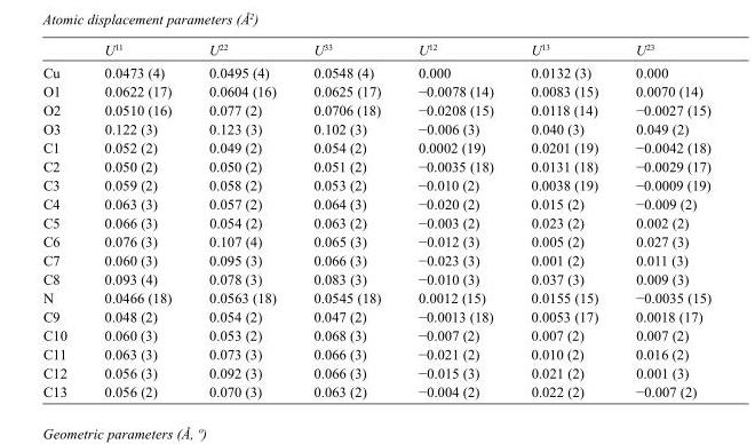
<table><thead><tr><td></td><td>U<sup>11</sup></td><td>U<sup>22</sup></td><td>U<sup>33</sup></td><td>U<sup>12</sup></td><td>U<sup>13</sup></td><td>U<sup>23</sup></td></tr></thead><tbody><tr><td>Cu</td><td>0.0473 (4)</td><td>0.0495 (4)</td><td>0.0548 (4)</td><td>0.000</td><td>0.0132 (3)</td><td>0.000</td></tr><tr><td>O1</td><td>0.0622 (17)</td><td>0.0604 (16)</td><td>0.0625 (17)</td><td>−0.0078 (14)</td><td>0.0083 (15)</td><td>0.0070 (14)</td></tr><tr><td>O2</td><td>0.0510 (16)</td><td>0.077 (2)</td><td>0.0706 (18)</td><td>−0.0208 (15)</td><td>0.0118 (14)</td><td>−0.0027 (15)</td></tr><tr><td>O3</td><td>0.122 (3)</td><td>0.123 (3)</td><td>0.102 (3)</td><td>−0.006 (3)</td><td>0.040 (3)</td><td>0.049 (2)</td></tr><tr><td>C1</td><td>0.052 (2)</td><td>0.049 (2)</td><td>0.054 (2)</td><td>0.0002 (19)</td><td>0.0201 (19)</td><td>−0.0042 (18)</td></tr><tr><td>C2</td><td>0.050 (2)</td><td>0.050 (2)</td><td>0.051 (2)</td><td>−0.0035 (18)</td><td>0.0131 (18)</td><td>−0.0029 (17)</td></tr><tr><td>C3</td><td>0.059 (2)</td><td>0.058 (2)</td><td>0.053 (2)</td><td>−0.010 (2)</td><td>0.0038 (19)</td><td>−0.0009 (19)</td></tr><tr><td>C4</td><td>0.063 (3)</td><td>0.057 (2)</td><td>0.064 (3)</td><td>−0.020 (2)</td><td>0.015 (2)</td><td>−0.009 (2)</td></tr><tr><td>C5</td><td>0.066 (3)</td><td>0.054 (2)</td><td>0.063 (2)</td><td>−0.003 (2)</td><td>0.023 (2)</td><td>0.002 (2)</td></tr><tr><td>C6</td><td>0.076 (3)</td><td>0.107 (4)</td><td>0.065 (3)</td><td>−0.012 (3)</td><td>0.005 (2)</td><td>0.027 (3)</td></tr><tr><td>C7</td><td>0.060 (3)</td><td>0.095 (3)</td><td>0.066 (3)</td><td>−0.023 (3)</td><td>0.001 (2)</td><td>0.011 (3)</td></tr><tr><td>C8</td><td>0.093 (4)</td><td>0.078 (3)</td><td>0.083 (3)</td><td>−0.010 (3)</td><td>0.037 (3)</td><td>0.009 (3)</td></tr><tr><td>N</td><td>0.0466 (18)</td><td>0.0563 (18)</td><td>0.0545 (18)</td><td>0.0012 (15)</td><td>0.0155 (15)</td><td>−0.0035 (15)</td></tr><tr><td>C9</td><td>0.048 (2)</td><td>0.054 (2)</td><td>0.047 (2)</td><td>−0.0013 (18)</td><td>0.0053 (17)</td><td>0.0018 (17)</td></tr><tr><td>C10</td><td>0.060 (3)</td><td>0.053 (2)</td><td>0.068 (3)</td><td>−0.007 (2)</td><td>0.007 (2)</td><td>0.007 (2)</td></tr><tr><td>C11</td><td>0.063 (3)</td><td>0.073 (3)</td><td>0.066 (3)</td><td>−0.021 (2)</td><td>0.010 (2)</td><td>0.016 (2)</td></tr><tr><td>C12</td><td>0.056 (3)</td><td>0.092 (3)</td><td>0.066 (3)</td><td>−0.015 (3)</td><td>0.021 (2)</td><td>0.001 (3)</td></tr><tr><td>C13</td><td>0.056 (2)</td><td>0.070 (3)</td><td>0.063 (2)</td><td>−0.004 (2)</td><td>0.022 (2)</td><td>−0.007 (2)</td></tr></tbody></table>